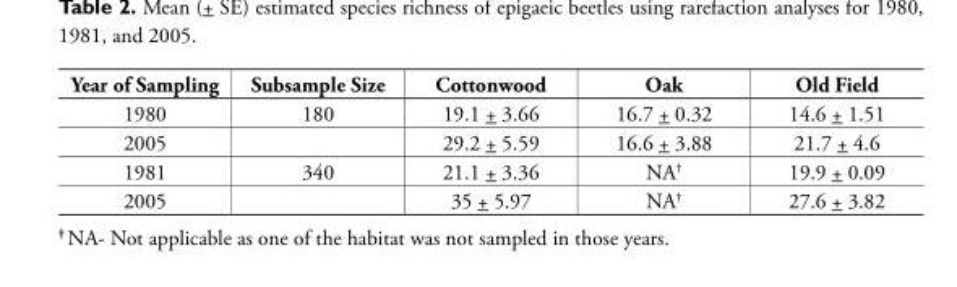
<table><thead><tr><td>Year of Sampling</td><td>Subsample Size</td><td>Cottonwood</td><td>Oak</td><td>Old Field</td></tr></thead><tbody><tr><td>1980</td><td>180</td><td>19.1 + 3.66</td><td>16.7 + 0.32</td><td>14.6 + 1.51</td></tr><tr><td>2005</td><td></td><td>29.2 + 5.59</td><td>16.6 + 3.88</td><td>21.7 + 4.6</td></tr><tr><td>1981</td><td>340</td><td>21.1 + 3.36</td><td>NA<sup>†</sup></td><td>19.9 + 0.09</td></tr><tr><td>2005</td><td></td><td>35 + 5.97</td><td>NA<sup>†</sup></td><td>27.6 + 3.82</td></tr></tbody></table>